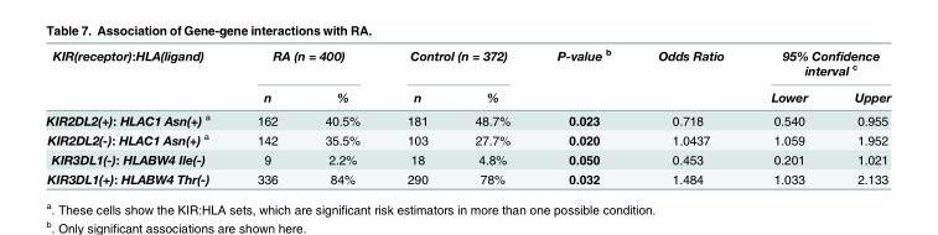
<table><thead><tr><td rowspan="2">KIR(receptor):HLA(ligand)</td><td colspan="2">RA (n = 400)</td><td colspan="2">Control (n = 372)</td><td rowspan="2">P-value <sup>b</sup></td><td rowspan="2">Odds Ratio</td><td colspan="2">95% Confidence interval <sup>c</sup></td></tr><tr><td>n</td><td>%</td><td>n</td><td>%</td><td>Lower</td><td>Upper</td></tr></thead><tbody><tr><td>KIR2DL2(+): HLAC1 Asn(+) <sup>a</sup></td><td>162</td><td>40.5%</td><td>181</td><td>48.7%</td><td>0.023</td><td>0.718</td><td>0.540</td><td>0.955</td></tr><tr><td>KIR2DL2(-): HLAC1 Asn(+) <sup>a</sup></td><td>142</td><td>35.5%</td><td>103</td><td>27.7%</td><td>0.020</td><td>1.0437</td><td>1.059</td><td>1.952</td></tr><tr><td>KIR3DL1(-): HLABW4 Ile(-)</td><td>9</td><td>2.2%</td><td>18</td><td>4.8%</td><td>0.050</td><td>0.453</td><td>0.201</td><td>1.021</td></tr><tr><td>KIR3DL1(+): HLABW4 Thr(-)</td><td>336</td><td>84%</td><td>290</td><td>78%</td><td>0.032</td><td>1.484</td><td>1.033</td><td>2.133</td></tr></tbody></table>